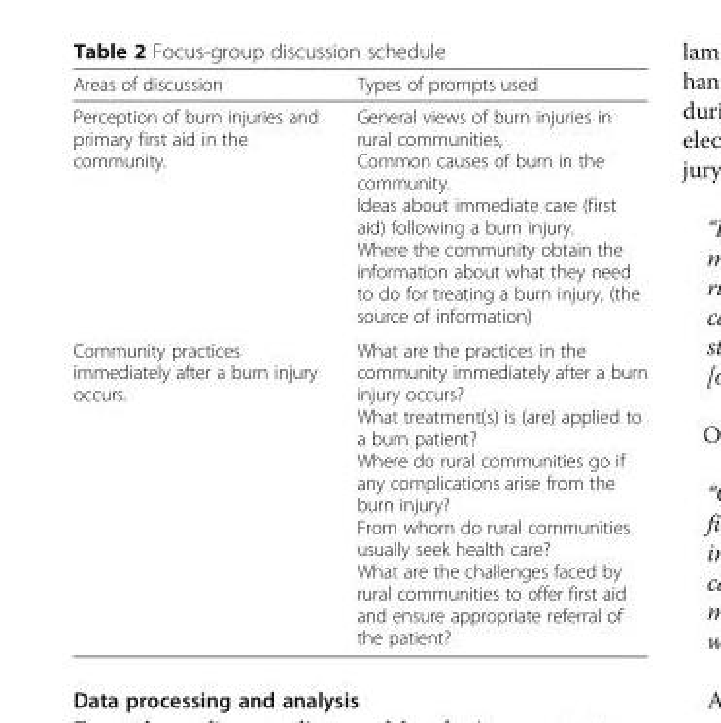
<table><thead><tr><td>Areas of discussion</td><td>Types of prompts used</td></tr></thead><tbody><tr><td>Perception of burn injuries and primary first aid in the community.</td><td>General views of burn injuries in rural communities, Common causes of burn in the community. Ideas about immediate care (first aid) following a burn injury. Where the community obtain the information about what they need to do for treating a burn injury, (the source of information)</td></tr><tr><td>Community practices immediately after a burn injury occurs.</td><td>What are the practices in the community immediately after a burn injury occurs? What treatment(s) is (are) applied to a burn patient? Where do rural communities go if any complications arise from the burn injury? From whom do rural communities usually seek health care? What are the challenges faced by rural communities to offer first aid and ensure appropriate referral of the patient?</td></tr></tbody></table>